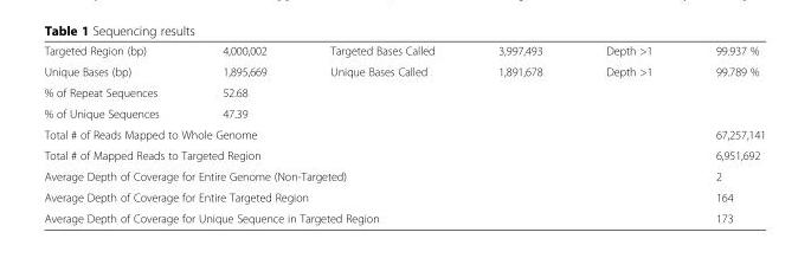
<table><tbody><tr><td>Targeted Region (bp)</td><td>4,000,002</td><td>Targeted Bases Called</td><td>3,997,493</td><td>Depth &gt;1</td><td>99.937 %</td></tr><tr><td>Unique Bases (bp)</td><td>1,895,669</td><td>Unique Bases Called</td><td>1,891,678</td><td>Depth &gt;1</td><td>99.789 %</td></tr><tr><td>% of Repeat Sequences</td><td>52.68</td><td></td><td></td><td></td><td></td></tr><tr><td>% of Unique Sequences</td><td>47.39</td><td></td><td></td><td></td><td></td></tr><tr><td colspan="5">Total # of Reads Mapped to Whole Genome</td><td>67,257,141</td></tr><tr><td colspan="5">Total # of Mapped Reads to Targeted Region</td><td>6,951,692</td></tr><tr><td colspan="5">Average Depth of Coverage for Entire Genome (Non-Targeted)</td><td>2</td></tr><tr><td colspan="5">Average Depth of Coverage for Entire Targeted Region</td><td>164</td></tr><tr><td colspan="5">Average Depth of Coverage for Unique Sequence in Targeted Region</td><td>173</td></tr></tbody></table>